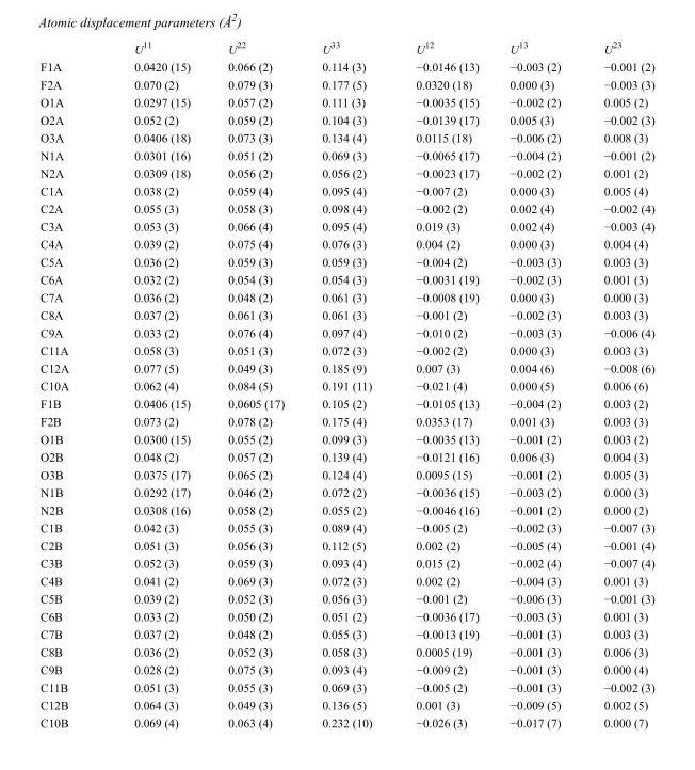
<table><thead><tr><td></td><td>U<sup>11</sup></td><td>U<sup>22</sup></td><td>U<sup>33</sup></td><td>U<sup>12</sup></td><td>U<sup>13</sup></td><td>U<sup>23</sup></td></tr></thead><tbody><tr><td>F1A</td><td>0.0420 (15)</td><td>0.066 (2)</td><td>0.114 (3)</td><td>−0.0146 (13)</td><td>−0.003 (2)</td><td>−0.001 (2)</td></tr><tr><td>F2A</td><td>0.070 (2)</td><td>0.079 (3)</td><td>0.177 (5)</td><td>0.0320 (18)</td><td>0.000 (3)</td><td>−0.003 (3)</td></tr><tr><td>O1A</td><td>0.0297 (15)</td><td>0.057 (2)</td><td>0.111 (3)</td><td>−0.0035 (15)</td><td>−0.002 (2)</td><td>0.005 (2)</td></tr><tr><td>O2A</td><td>0.052 (2)</td><td>0.059 (2)</td><td>0.104 (3)</td><td>−0.0139 (17)</td><td>0.005 (3)</td><td>−0.002 (3)</td></tr><tr><td>O3A</td><td>0.0406 (18)</td><td>0.073 (3)</td><td>0.134 (4)</td><td>0.0115 (18)</td><td>−0.006 (2)</td><td>0.008 (3)</td></tr><tr><td>N1A</td><td>0.0301 (16)</td><td>0.051 (2)</td><td>0.069 (3)</td><td>−0.0065 (17)</td><td>−0.004 (2)</td><td>−0.001 (2)</td></tr><tr><td>N2A</td><td>0.0309 (18)</td><td>0.056 (2)</td><td>0.056 (2)</td><td>−0.0023 (17)</td><td>−0.002 (2)</td><td>0.001 (2)</td></tr><tr><td>C1A</td><td>0.038 (2)</td><td>0.059 (4)</td><td>0.095 (4)</td><td>−0.007 (2)</td><td>0.000 (3)</td><td>0.005 (4)</td></tr><tr><td>C2A</td><td>0.055 (3)</td><td>0.058 (3)</td><td>0.098 (4)</td><td>−0.002 (2)</td><td>0.002 (4)</td><td>−0.002 (4)</td></tr><tr><td>C3A</td><td>0.053 (3)</td><td>0.066 (4)</td><td>0.095 (4)</td><td>0.019 (3)</td><td>0.002 (4)</td><td>−0.003 (4)</td></tr><tr><td>C4A</td><td>0.039 (2)</td><td>0.075 (4)</td><td>0.076 (3)</td><td>0.004 (2)</td><td>0.000 (3)</td><td>0.004 (4)</td></tr><tr><td>C5A</td><td>0.036 (2)</td><td>0.059 (3)</td><td>0.059 (3)</td><td>−0.004 (2)</td><td>−0.003 (3)</td><td>0.003 (3)</td></tr><tr><td>C6A</td><td>0.032 (2)</td><td>0.054 (3)</td><td>0.054 (3)</td><td>−0.0031 (19)</td><td>−0.002 (3)</td><td>0.001 (3)</td></tr><tr><td>C7A</td><td>0.036 (2)</td><td>0.048 (2)</td><td>0.061 (3)</td><td>−0.0008 (19)</td><td>0.000 (3)</td><td>0.000 (3)</td></tr><tr><td>C8A</td><td>0.037 (2)</td><td>0.061 (3)</td><td>0.061 (3)</td><td>−0.001 (2)</td><td>−0.002 (3)</td><td>0.003 (3)</td></tr><tr><td>C9A</td><td>0.033 (2)</td><td>0.076 (4)</td><td>0.097 (4)</td><td>−0.010 (2)</td><td>−0.003 (3)</td><td>−0.006 (4)</td></tr><tr><td>C11A</td><td>0.058 (3)</td><td>0.051 (3)</td><td>0.072 (3)</td><td>−0.002 (2)</td><td>0.000 (3)</td><td>0.003 (3)</td></tr><tr><td>C12A</td><td>0.077 (5)</td><td>0.049 (3)</td><td>0.185 (9)</td><td>0.007 (3)</td><td>0.004 (6)</td><td>−0.008 (6)</td></tr><tr><td>C10A</td><td>0.062 (4)</td><td>0.084 (5)</td><td>0.191 (11)</td><td>−0.021 (4)</td><td>0.000 (5)</td><td>0.006 (6)</td></tr><tr><td>F1B</td><td>0.0406 (15)</td><td>0.0605 (17)</td><td>0.105 (2)</td><td>−0.0105 (13)</td><td>−0.004 (2)</td><td>0.003 (2)</td></tr><tr><td>F2B</td><td>0.073 (2)</td><td>0.078 (2)</td><td>0.175 (4)</td><td>0.0353 (17)</td><td>0.001 (3)</td><td>0.003 (3)</td></tr><tr><td>O1B</td><td>0.0300 (15)</td><td>0.055 (2)</td><td>0.099 (3)</td><td>−0.0035 (13)</td><td>−0.001 (2)</td><td>0.003 (2)</td></tr><tr><td>O2B</td><td>0.048 (2)</td><td>0.057 (2)</td><td>0.139 (4)</td><td>−0.0121 (16)</td><td>0.006 (3)</td><td>0.004 (3)</td></tr><tr><td>O3B</td><td>0.0375 (17)</td><td>0.065 (2)</td><td>0.124 (4)</td><td>0.0095 (15)</td><td>−0.001 (2)</td><td>0.005 (3)</td></tr><tr><td>N1B</td><td>0.0292 (17)</td><td>0.046 (2)</td><td>0.072 (2)</td><td>−0.0036 (15)</td><td>−0.003 (2)</td><td>0.000 (3)</td></tr><tr><td>N2B</td><td>0.0308 (16)</td><td>0.058 (2)</td><td>0.055 (2)</td><td>−0.0046 (16)</td><td>−0.001 (2)</td><td>0.000 (2)</td></tr><tr><td>C1B</td><td>0.042 (3)</td><td>0.055 (3)</td><td>0.089 (4)</td><td>−0.005 (2)</td><td>−0.002 (3)</td><td>−0.007 (3)</td></tr><tr><td>C2B</td><td>0.051 (3)</td><td>0.056 (3)</td><td>0.112 (5)</td><td>0.002 (2)</td><td>−0.005 (4)</td><td>−0.001 (4)</td></tr><tr><td>C3B</td><td>0.052 (3)</td><td>0.059 (3)</td><td>0.093 (4)</td><td>0.015 (2)</td><td>−0.002 (4)</td><td>−0.007 (4)</td></tr><tr><td>C4B</td><td>0.041 (2)</td><td>0.069 (3)</td><td>0.072 (3)</td><td>0.002 (2)</td><td>−0.004 (3)</td><td>0.001 (3)</td></tr><tr><td>C5B</td><td>0.039 (2)</td><td>0.052 (3)</td><td>0.056 (3)</td><td>−0.001 (2)</td><td>−0.006 (3)</td><td>−0.001 (3)</td></tr><tr><td>C6B</td><td>0.033 (2)</td><td>0.050 (2)</td><td>0.051 (2)</td><td>−0.0036 (17)</td><td>−0.003 (3)</td><td>0.001 (3)</td></tr><tr><td>C7B</td><td>0.037 (2)</td><td>0.048 (2)</td><td>0.055 (3)</td><td>−0.0013 (19)</td><td>−0.001 (3)</td><td>0.003 (3)</td></tr><tr><td>C8B</td><td>0.036 (2)</td><td>0.052 (3)</td><td>0.058 (3)</td><td>0.0005 (19)</td><td>−0.001 (3)</td><td>0.006 (3)</td></tr><tr><td>C9B</td><td>0.028 (2)</td><td>0.075 (3)</td><td>0.093 (4)</td><td>−0.009 (2)</td><td>−0.001 (3)</td><td>0.000 (4)</td></tr><tr><td>C11B</td><td>0.051 (3)</td><td>0.055 (3)</td><td>0.069 (3)</td><td>−0.005 (2)</td><td>−0.001 (3)</td><td>−0.002 (3)</td></tr><tr><td>C12B</td><td>0.064 (3)</td><td>0.049 (3)</td><td>0.136 (5)</td><td>0.001 (3)</td><td>−0.009 (5)</td><td>0.002 (5)</td></tr><tr><td>C10B</td><td>0.069 (4)</td><td>0.063 (4)</td><td>0.232 (10)</td><td>−0.026 (3)</td><td>−0.017 (7)</td><td>0.000 (7)</td></tr></tbody></table>